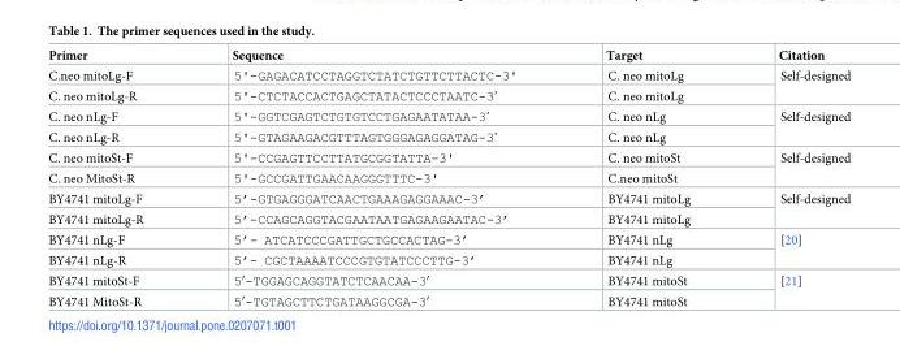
<table><thead><tr><td>Primer</td><td>Sequence</td><td>Target</td><td>Citation</td></tr></thead><tbody><tr><td>C.neo mitoLg-F</td><td>5&#x27;-GAGACATCCTAGGTCTATCTGTTCTTACTC-3&#x27;</td><td>C. neo mitoLg</td><td rowspan="2">Self-designed</td></tr><tr><td>C. neo mitoLg-R</td><td>5&#x27;-CTCTACCACTGAGCTATACTCCCTAATC-3’</td><td>C. neo mitoLg</td></tr><tr><td>C. neo nLg-F</td><td>5&#x27;-GGTCGAGTCTGTGTCCTGAGAATATAA-3’</td><td>C. neo nLg</td><td rowspan="2">Self-designed</td></tr><tr><td>C. neo nLg-R</td><td>5&#x27;-GTAGAAGACGTTTAGTGGGAGAGGATAG-3’</td><td>C. neo nLg</td></tr><tr><td>C. neo mitoSt-F</td><td>5&#x27;-CCGAGTTCCTTATGCGGTATTA-3&#x27;</td><td>C. neo mitoSt</td><td rowspan="2">Self-designed</td></tr><tr><td>C. neo MitoSt-R</td><td>5&#x27;-GCCGATTGAACAAGGGTTTC-3&#x27;</td><td>C.neo mitoSt</td></tr><tr><td>BY4741 mitoLg-F</td><td>5’-GTGAGGGATCAACTGAAAGAGGAAAC-3’</td><td>BY4741 mitoLg</td><td rowspan="2">Self-designed</td></tr><tr><td>BY4741 mitoLg-R</td><td>5’-CCAGCAGGTACGAATAATGAGAAGAATAC-3’</td><td>BY4741 mitoLg</td></tr><tr><td>BY4741 nLg-F</td><td>5’- ATCATCCCGATTGCTGCCACTAG-3’</td><td>BY4741 nLg</td><td rowspan="2">[20]</td></tr><tr><td>BY4741 nLg-R</td><td>5’- CGCTAAAATCCCGTGTATCCCTTG-3’</td><td>BY4741 nLg</td></tr><tr><td>BY4741 mitoSt-F</td><td>5′-TGGAGCAGGTATCTCAACAA-3′</td><td>BY4741 mitoSt</td><td rowspan="2">[21]</td></tr><tr><td>BY4741 MitoSt-R</td><td>5′-TGTAGCTTCTGATAAGGCGA-3′</td><td>BY4741 mitoSt</td></tr></tbody></table>